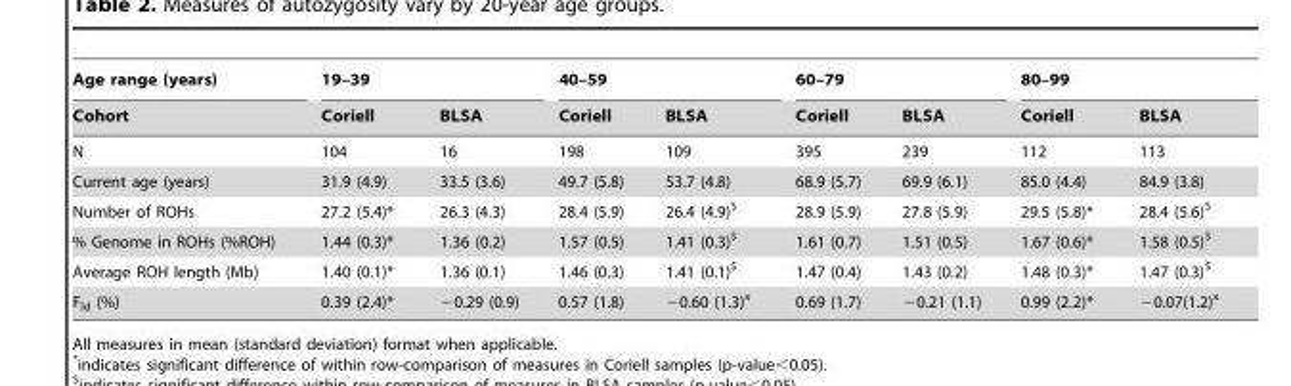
<table><thead><tr><td rowspan="2">Age range (years) Cohort</td><td colspan="2">19–39</td><td colspan="2">40–59</td><td colspan="2">60–79</td><td colspan="2">80–99</td></tr><tr><td>Coriell</td><td>BLSA</td><td>Coriell</td><td>BLSA</td><td>Coriell</td><td>BLSA</td><td>Coriell</td><td>BLSA</td></tr></thead><tbody><tr><td>N</td><td>104</td><td>16</td><td>198</td><td>109</td><td>395</td><td>239</td><td>112</td><td>113</td></tr><tr><td>Current age (years)</td><td>31.9 (4.9)</td><td>33.5 (3.6)</td><td>49.7 (5.8)</td><td>53.7 (4.8)</td><td>68.9 (5.7)</td><td>69.9 (6.1)</td><td>85.0 (4.4)</td><td>84.9 (3.8)</td></tr><tr><td>Number of ROHs</td><td>27.2 (5.4)*</td><td>26.3 (4.3)</td><td>28.4 (5.9)</td><td>26.4 (4.9)$</td><td>28.9 (5.9)</td><td>27.8 (5.9)</td><td>29.5 (5.8)*</td><td>28.4 (5.6)$</td></tr><tr><td>% Genome in ROHs (%ROH)</td><td>1.44 (0.3)*</td><td>1.36 (0.2)</td><td>1.57 (0.5)</td><td>1.41 (0.3)$</td><td>1.61 (0.7)</td><td>1.51 (0.5)</td><td>1.67 (0.6)*</td><td>1.58 (0.5)$</td></tr><tr><td>Average ROH length (Mb)</td><td>1.40 (0.1)*</td><td>1.36 (0.1)</td><td>1.46 (0.3)</td><td>1.41 (0.1)$</td><td>1.47 (0.4)</td><td>1.43 (0.2)</td><td>1.48 (0.3)*</td><td>1.47 (0.3)$</td></tr><tr><td>F<sub>ld</sub> (%)</td><td>0.39 (2.4)*</td><td>−0.29 (0.9)</td><td>0.57 (1.8)</td><td>−0.60 (1.3)<sup>x</sup></td><td>0.69 (1.7)</td><td>−0.21 (1.1)</td><td>0.99 (2.2)*</td><td>−0.07(1.2)<sup>x</sup></td></tr></tbody></table>